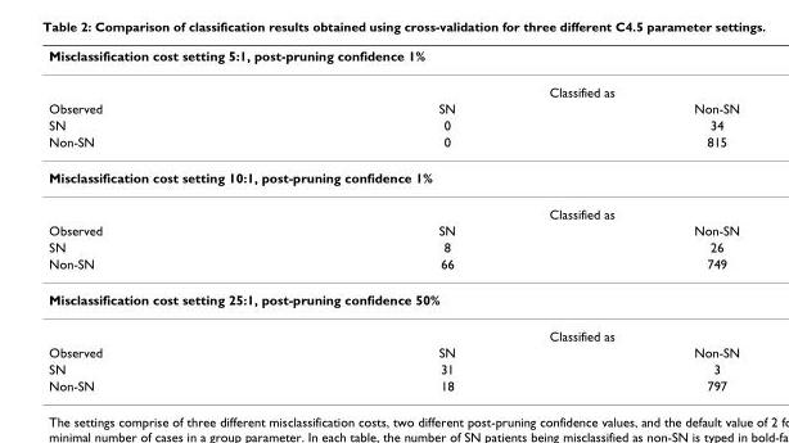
<table><thead><tr><td colspan="3">Misclassification cost setting 5:1, post-pruning confidence 1%</td></tr><tr><td rowspan="2">Observed</td><td colspan="2">Classified as</td></tr><tr><td>SN</td><td>Non-SN</td></tr></thead><tbody><tr><td>SN</td><td>0</td><td>34</td></tr><tr><td>Non-SN</td><td>0</td><td>815</td></tr><tr><td colspan="3">Misclassification cost setting 10:1, post-pruning confidence 1%</td></tr><tr><td></td><td colspan="2">Classified as</td></tr><tr><td>Observed</td><td>SN</td><td>Non-SN</td></tr><tr><td>SN</td><td>8</td><td>26</td></tr><tr><td>Non-SN</td><td>66</td><td>749</td></tr><tr><td colspan="3">Misclassification cost setting 25:1, post-pruning confidence 50%</td></tr><tr><td></td><td colspan="2">Classified as</td></tr><tr><td>Observed</td><td>SN</td><td>Non-SN</td></tr><tr><td>SN</td><td>31</td><td>3</td></tr><tr><td>Non-SN</td><td>18</td><td>797</td></tr></tbody></table>